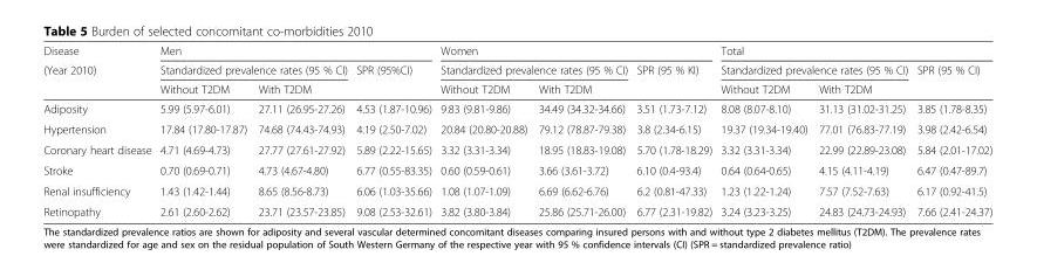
<table><thead><tr><td rowspan="3">Disease (Year 2010)</td><td colspan="3">Men</td><td colspan="3">Women</td><td colspan="3">Total</td></tr><tr><td colspan="2">Standardized prevalence rates (95 % CI)</td><td rowspan="2">SPR (95%CI)</td><td colspan="2">Standardized prevalence rates (95 % CI)</td><td rowspan="2">SPR (95 % KI)</td><td colspan="2">Standardized prevalence rates (95 % CI)</td><td rowspan="2">SPR (95 % CI)</td></tr><tr><td>Without T2DM</td><td>With T2DM</td><td>Without T2DM</td><td>With T2DM</td><td>Without T2DM</td><td>With T2DM</td></tr></thead><tbody><tr><td>Adiposity</td><td>5.99 (5.97-6.01)</td><td>27.11 (26.95-27.26)</td><td>4.53 (1.87-10.96)</td><td>9.83 (9.81-9.86)</td><td>34.49 (34.32-34.66)</td><td>3.51 (1.73-7.12)</td><td>8.08 (8.07-8.10)</td><td>31.13 (31.02-31.25)</td><td>3.85 (1.78-8.35)</td></tr><tr><td>Hypertension</td><td>17.84 (17.80-17.87)</td><td>74.68 (74.43-74.93)</td><td>4.19 (2.50-7.02)</td><td>20.84 (20.80-20.88)</td><td>79.12 (78.87-79.38)</td><td>3.8 (2.34-6.15)</td><td>19.37 (19.34-19.40)</td><td>77.01 (76.83-77.19)</td><td>3.98 (2.42-6.54)</td></tr><tr><td>Coronary heart disease</td><td>4.71 (4.69-4.73)</td><td>27.77 (27.61-27.92)</td><td>5.89 (2.22-15.65)</td><td>3.32 (3.31-3.34)</td><td>18.95 (18.83-19.08)</td><td>5.70 (1.78-18.29)</td><td>3.32 (3.31-3.34)</td><td>22.99 (22.89-23.08)</td><td>5.84 (2.01-17.02)</td></tr><tr><td>Stroke</td><td>0.70 (0.69-0.71)</td><td>4.73 (4.67-4.80)</td><td>6.77 (0.55-83.35)</td><td>0.60 (0.59-0.61)</td><td>3.66 (3.61-3.72)</td><td>6.10 (0.4-93.4)</td><td>0.64 (0.64-0.65)</td><td>4.15 (4.11-4.19)</td><td>6.47 (0.47-89.7)</td></tr><tr><td>Renal insufficiency</td><td>1.43 (1.42-1.44)</td><td>8.65 (8.56-8.73)</td><td>6.06 (1.03-35.66)</td><td>1.08 (1.07-1.09)</td><td>6.69 (6.62-6.76)</td><td>6.2 (0.81-47.33)</td><td>1.23 (1.22-1.24)</td><td>7.57 (7.52-7.63)</td><td>6.17 (0.92-41.5)</td></tr><tr><td>Retinopathy</td><td>2.61 (2.60-2.62)</td><td>23.71 (23.57-23.85)</td><td>9.08 (2.53-32.61)</td><td>3.82 (3.80-3.84)</td><td>25.86 (25.71-26.00)</td><td>6.77 (2.31-19.82)</td><td>3.24 (3.23-3.25)</td><td>24.83 (24.73-24.93)</td><td>7.66 (2.41-24.37)</td></tr></tbody></table>